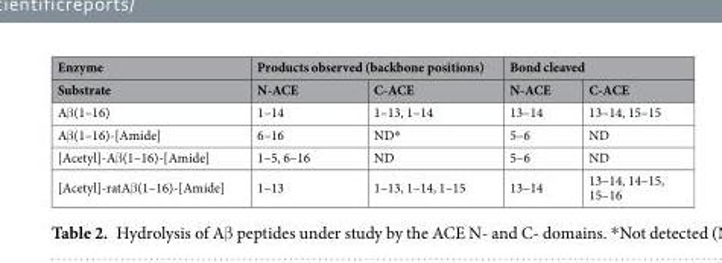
<table><thead><tr><td rowspan="2">Enzyme Substrate</td><td colspan="2">Products observed (backbone positions)</td><td colspan="2">Bond cleaved</td></tr><tr><td>N-ACE</td><td>C-ACE</td><td>N-ACE</td><td>C-ACE</td></tr></thead><tbody><tr><td>Aβ(1–16)</td><td>1–14</td><td>1–13, 1–14</td><td>13–14</td><td>13–14, 15–15</td></tr><tr><td>Aβ(1–16)-[Amide]</td><td>6–16</td><td>ND*</td><td>5–6</td><td>ND</td></tr><tr><td>[Acetyl]-Aβ(1–16)-[Amide]</td><td>1–5, 6–16</td><td>ND</td><td>5–6</td><td>ND</td></tr><tr><td>[Acetyl]-ratAβ(1–16)-[Amide]</td><td>1–13</td><td>1–13, 1–14, 1–15</td><td>13–14</td><td>13–14, 14–15, 15–16</td></tr></tbody></table>